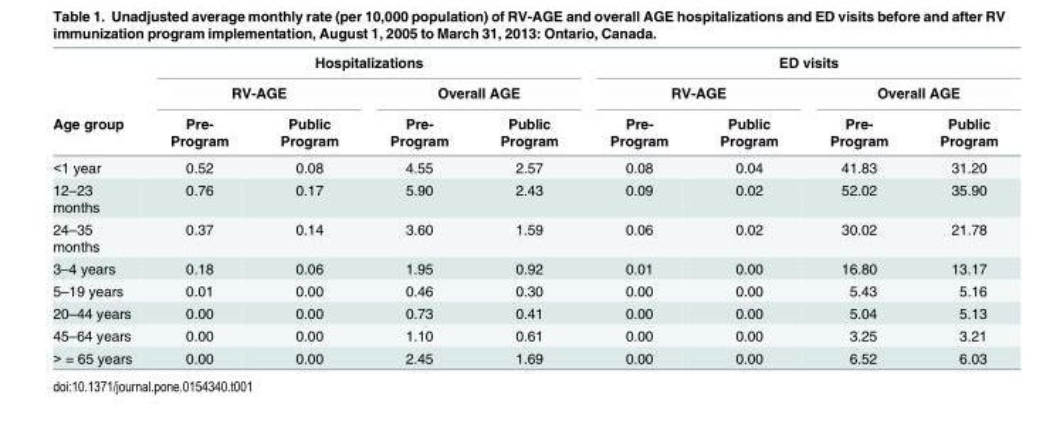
<table><thead><tr><td rowspan="3">Age group</td><td colspan="4">Hospitalizations</td><td colspan="4">ED visits</td></tr><tr><td colspan="2">RV-AGE</td><td colspan="2">Overall AGE</td><td colspan="2">RV-AGE</td><td colspan="2">Overall AGE</td></tr><tr><td>Pre- Program</td><td>Public Program</td><td>Pre- Program</td><td>Public Program</td><td>Pre- Program</td><td>Public Program</td><td>Pre- Program</td><td>Public Program</td></tr></thead><tbody><tr><td>&lt;1 year</td><td>0.52</td><td>0.08</td><td>4.55</td><td>2.57</td><td>0.08</td><td>0.04</td><td>41.83</td><td>31.20</td></tr><tr><td>12–23 months</td><td>0.76</td><td>0.17</td><td>5.90</td><td>2.43</td><td>0.09</td><td>0.02</td><td>52.02</td><td>35.90</td></tr><tr><td>24–35 months</td><td>0.37</td><td>0.14</td><td>3.60</td><td>1.59</td><td>0.06</td><td>0.02</td><td>30.02</td><td>21.78</td></tr><tr><td>3–4 years</td><td>0.18</td><td>0.06</td><td>1.95</td><td>0.92</td><td>0.01</td><td>0.00</td><td>16.80</td><td>13.17</td></tr><tr><td>5–19 years</td><td>0.01</td><td>0.00</td><td>0.46</td><td>0.30</td><td>0.00</td><td>0.00</td><td>5.43</td><td>5.16</td></tr><tr><td>20–44 years</td><td>0.00</td><td>0.00</td><td>0.73</td><td>0.41</td><td>0.00</td><td>0.00</td><td>5.04</td><td>5.13</td></tr><tr><td>45–64 years</td><td>0.00</td><td>0.00</td><td>1.10</td><td>0.61</td><td>0.00</td><td>0.00</td><td>3.25</td><td>3.21</td></tr><tr><td>&gt; = 65 years</td><td>0.00</td><td>0.00</td><td>2.45</td><td>1.69</td><td>0.00</td><td>0.00</td><td>6.52</td><td>6.03</td></tr></tbody></table>